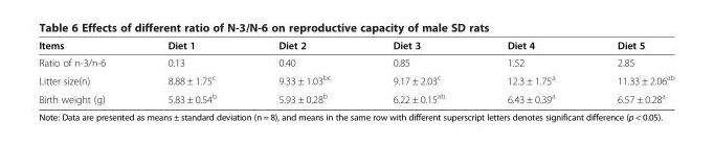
<table><thead><tr><td>Items</td><td>Diet 1</td><td>Diet 2</td><td>Diet 3</td><td>Diet 4</td><td>Diet 5</td></tr></thead><tbody><tr><td>Ratio of n-3/n-6</td><td>0.13</td><td>0.40</td><td>0.85</td><td>1.52</td><td>2.85</td></tr><tr><td>Litter size(n)</td><td>8.88 ± 1.75<sup>c</sup></td><td>9.33 ± 1.03<sup>bc</sup></td><td>9.17 ± 2.03<sup>c</sup></td><td>12.3 ± 1.75<sup>a</sup></td><td>11.33 ± 2.06<sup>ab</sup></td></tr><tr><td>Birth weight (g)</td><td>5.83 ± 0.54<sup>b</sup></td><td>5.93 ± 0.28<sup>b</sup></td><td>6.22 ± 0.15<sup>ab</sup></td><td>6.43 ± 0.39<sup>a</sup></td><td>6.57 ± 0.28<sup>a</sup></td></tr></tbody></table>